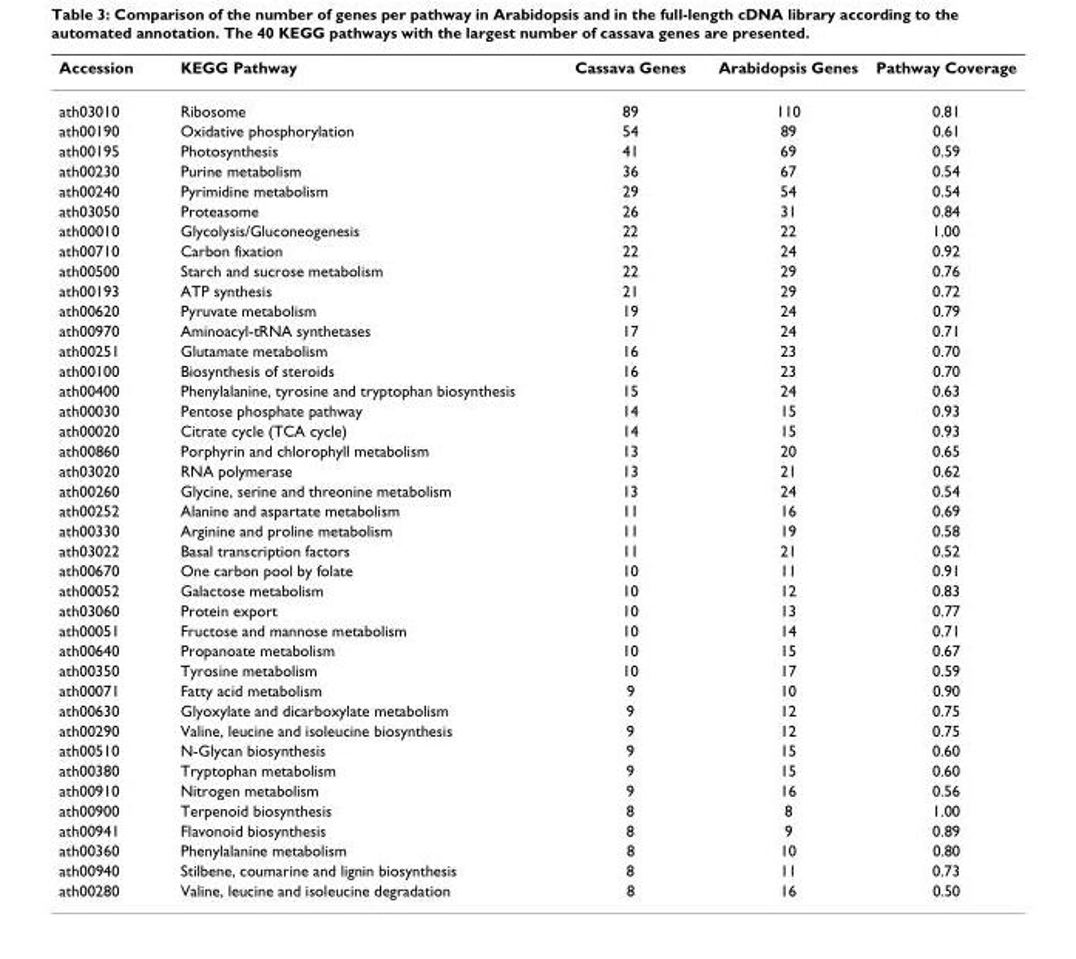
<table><thead><tr><td>Accession</td><td>KEGG Pathway</td><td>Cassava Genes</td><td>Arabidopsis Genes</td><td>Pathway Coverage</td></tr></thead><tbody><tr><td>ath03010</td><td>Ribosome</td><td>89</td><td>110</td><td>0.81</td></tr><tr><td>ath00190</td><td>Oxidative phosphorylation</td><td>54</td><td>89</td><td>0.61</td></tr><tr><td>ath00195</td><td>Photosynthesis</td><td>41</td><td>69</td><td>0.59</td></tr><tr><td>ath00230</td><td>Purine metabolism</td><td>36</td><td>67</td><td>0.54</td></tr><tr><td>ath00240</td><td>Pyrimidine metabolism</td><td>29</td><td>54</td><td>0.54</td></tr><tr><td>ath03050</td><td>Proteasome</td><td>26</td><td>31</td><td>0.84</td></tr><tr><td>ath00010</td><td>Glycolysis/Gluconeogenesis</td><td>22</td><td>22</td><td>1.00</td></tr><tr><td>ath00710</td><td>Carbon fixation</td><td>22</td><td>24</td><td>0.92</td></tr><tr><td>ath00500</td><td>Starch and sucrose metabolism</td><td>22</td><td>29</td><td>0.76</td></tr><tr><td>ath00193</td><td>ATP synthesis</td><td>21</td><td>29</td><td>0.72</td></tr><tr><td>ath00620</td><td>Pyruvate metabolism</td><td>19</td><td>24</td><td>0.79</td></tr><tr><td>ath00970</td><td>Aminoacyl-tRNA synthetases</td><td>17</td><td>24</td><td>0.71</td></tr><tr><td>ath00251</td><td>Glutamate metabolism</td><td>16</td><td>23</td><td>0.70</td></tr><tr><td>ath00100</td><td>Biosynthesis of steroids</td><td>16</td><td>23</td><td>0.70</td></tr><tr><td>ath00400</td><td>Phenylalanine, tyrosine and tryptophan biosynthesis</td><td>15</td><td>24</td><td>0.63</td></tr><tr><td>ath00030</td><td>Pentose phosphate pathway</td><td>14</td><td>15</td><td>0.93</td></tr><tr><td>ath00020</td><td>Citrate cycle (TCA cycle)</td><td>14</td><td>15</td><td>0.93</td></tr><tr><td>ath00860</td><td>Porphyrin and chlorophyll metabolism</td><td>13</td><td>20</td><td>0.65</td></tr><tr><td>ath03020</td><td>RNA polymerase</td><td>13</td><td>21</td><td>0.62</td></tr><tr><td>ath00260</td><td>Glycine, serine and threonine metabolism</td><td>13</td><td>24</td><td>0.54</td></tr><tr><td>ath00252</td><td>Alanine and aspartate metabolism</td><td>11</td><td>16</td><td>0.69</td></tr><tr><td>ath00330</td><td>Arginine and proline metabolism</td><td>11</td><td>19</td><td>0.58</td></tr><tr><td>ath03022</td><td>Basal transcription factors</td><td>11</td><td>21</td><td>0.52</td></tr><tr><td>ath00670</td><td>One carbon pool by folate</td><td>10</td><td>11</td><td>0.91</td></tr><tr><td>ath00052</td><td>Galactose metabolism</td><td>10</td><td>12</td><td>0.83</td></tr><tr><td>ath03060</td><td>Protein export</td><td>10</td><td>13</td><td>0.77</td></tr><tr><td>ath00051</td><td>Fructose and mannose metabolism</td><td>10</td><td>14</td><td>0.71</td></tr><tr><td>ath00640</td><td>Propanoate metabolism</td><td>10</td><td>15</td><td>0.67</td></tr><tr><td>ath00350</td><td>Tyrosine metabolism</td><td>10</td><td>17</td><td>0.59</td></tr><tr><td>ath00071</td><td>Fatty acid metabolism</td><td>9</td><td>10</td><td>0.90</td></tr><tr><td>ath00630</td><td>Glyoxylate and dicarboxylate metabolism</td><td>9</td><td>12</td><td>0.75</td></tr><tr><td>ath00290</td><td>Valine, leucine and isoleucine biosynthesis</td><td>9</td><td>12</td><td>0.75</td></tr><tr><td>ath00510</td><td>N-Glycan biosynthesis</td><td>9</td><td>15</td><td>0.60</td></tr><tr><td>ath00380</td><td>Tryptophan metabolism</td><td>9</td><td>15</td><td>0.60</td></tr><tr><td>ath00910</td><td>Nitrogen metabolism</td><td>9</td><td>16</td><td>0.56</td></tr><tr><td>ath00900</td><td>Terpenoid biosynthesis</td><td>8</td><td>8</td><td>1.00</td></tr><tr><td>ath00941</td><td>Flavonoid biosynthesis</td><td>8</td><td>9</td><td>0.89</td></tr><tr><td>ath00360</td><td>Phenylalanine metabolism</td><td>8</td><td>10</td><td>0.80</td></tr><tr><td>ath00940</td><td>Stilbene, coumarine and lignin biosynthesis</td><td>8</td><td>11</td><td>0.73</td></tr><tr><td>ath00280</td><td>Valine, leucine and isoleucine degradation</td><td>8</td><td>16</td><td>0.50</td></tr></tbody></table>